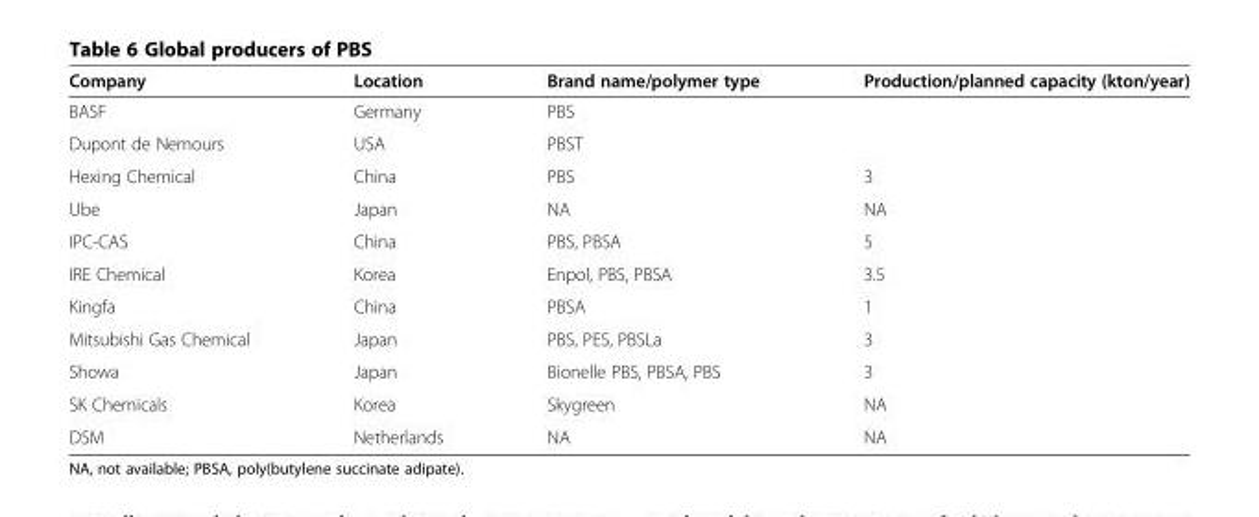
<table><thead><tr><td>Company</td><td>Location</td><td>Brand name/polymer type</td><td>Production/planned capacity (kton/year)</td></tr></thead><tbody><tr><td>BASF</td><td>Germany</td><td>PBS</td><td></td></tr><tr><td>Dupont de Nemours</td><td>USA</td><td>PBST</td><td></td></tr><tr><td>Hexing Chemical</td><td>China</td><td>PBS</td><td>3</td></tr><tr><td>Ube</td><td>Japan</td><td>NA</td><td>NA</td></tr><tr><td>IPC-CAS</td><td>China</td><td>PBS, PBSA</td><td>5</td></tr><tr><td>IRE Chemical</td><td>Korea</td><td>Enpol, PBS, PBSA</td><td>3.5</td></tr><tr><td>Kingfa</td><td>China</td><td>PBSA</td><td>1</td></tr><tr><td>Mitsubishi Gas Chemical</td><td>Japan</td><td>PBS, PES, PBSLa</td><td>3</td></tr><tr><td>Showa</td><td>Japan</td><td>Bionelle PBS, PBSA, PBS</td><td>3</td></tr><tr><td>SK Chemicals</td><td>Korea</td><td>Skygreen</td><td>NA</td></tr><tr><td>DSM</td><td>Netherlands</td><td>NA</td><td>NA</td></tr></tbody></table>